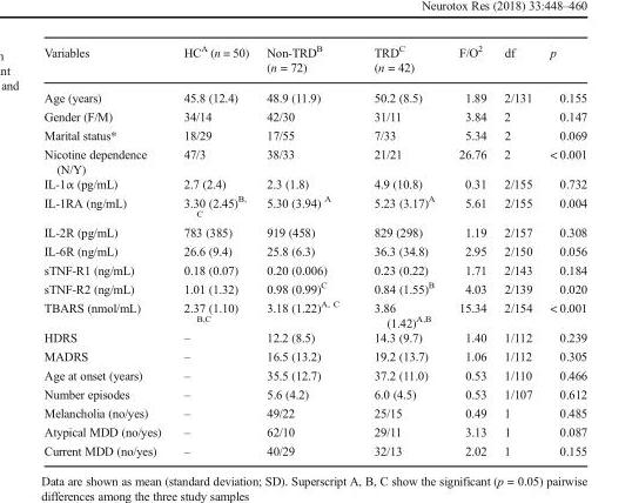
<table><thead><tr><td>Variables</td><td>HC<sup>A</sup> (n = 50)</td><td>Non-TRD<sup>B</sup> (n = 72)</td><td>TRD<sup>C</sup> (n = 42)</td><td>F/O<sup>2</sup></td><td>df</td><td>p</td></tr></thead><tbody><tr><td>Age (years)</td><td>45.8 (12.4)</td><td>48.9 (11.9)</td><td>50.2 (8.5)</td><td>1.89</td><td>2/131</td><td>0.155</td></tr><tr><td>Gender (F/M)</td><td>34/14</td><td>42/30</td><td>31/11</td><td>3.84</td><td>2</td><td>0.147</td></tr><tr><td>Marital status*</td><td>18/29</td><td>17/55</td><td>7/33</td><td>5.34</td><td>2</td><td>0.069</td></tr><tr><td>Nicotine dependence (N/Y)</td><td>47/3</td><td>38/33</td><td>21/21</td><td>26.76</td><td>2</td><td>&lt; 0.001</td></tr><tr><td>IL-1α (pg/mL)</td><td>2.7 (2.4)</td><td>2.3 (1.8)</td><td>4.9 (10.8)</td><td>0.31</td><td>2/155</td><td>0.732</td></tr><tr><td>IL-1RA (ng/mL)</td><td>3.30 (2.45)<sup>B, C</sup></td><td>5.30 (3.94) <sup>A</sup></td><td>5.23 (3.17)<sup>A</sup></td><td>5.61</td><td>2/155</td><td>0.004</td></tr><tr><td>IL-2R (pg/mL)</td><td>783 (385)</td><td>919 (458)</td><td>829 (298)</td><td>1.19</td><td>2/157</td><td>0.308</td></tr><tr><td>IL-6R (ng/mL)</td><td>26.6 (9.4)</td><td>25.8 (6.3)</td><td>36.3 (34.8)</td><td>2.95</td><td>2/150</td><td>0.056</td></tr><tr><td>sTNF-R1 (ng/mL)</td><td>0.18 (0.07)</td><td>0.20 (0.006)</td><td>0.23 (0.22)</td><td>1.71</td><td>2/143</td><td>0.184</td></tr><tr><td>sTNF-R2 (ng/mL)</td><td>1.01 (1.32)</td><td>0.98 (0.99)<sup>C</sup></td><td>0.84 (1.55)<sup>B</sup></td><td>4.03</td><td>2/139</td><td>0.020</td></tr><tr><td>TBARS (nmol/mL)</td><td>2.37 (1.10) <sup>B,C</sup></td><td>3.18 (1.22)<sup>A, C</sup></td><td>3.86 (1.42)<sup>A,B</sup></td><td>15.34</td><td>2/154</td><td>&lt; 0.001</td></tr><tr><td>HDRS</td><td>–</td><td>12.2 (8.5)</td><td>14.3 (9.7)</td><td>1.40</td><td>1/112</td><td>0.239</td></tr><tr><td>MADRS</td><td>–</td><td>16.5 (13.2)</td><td>19.2 (13.7)</td><td>1.06</td><td>1/112</td><td>0.305</td></tr><tr><td>Age at onset (years)</td><td>–</td><td>35.5 (12.7)</td><td>37.2 (11.0)</td><td>0.53</td><td>1/110</td><td>0.466</td></tr><tr><td>Number episodes</td><td>–</td><td>5.6 (4.2)</td><td>6.0 (4.5)</td><td>0.53</td><td>1/107</td><td>0.612</td></tr><tr><td>Melancholia (no/yes)</td><td>–</td><td>49/22</td><td>25/15</td><td>0.49</td><td>1</td><td>0.485</td></tr><tr><td>Atypical MDD (no/yes)</td><td>–</td><td>62/10</td><td>29/11</td><td>3.13</td><td>1</td><td>0.087</td></tr><tr><td>Current MDD (no/yes)</td><td>–</td><td>40/29</td><td>32/13</td><td>2.02</td><td>1</td><td>0.155</td></tr></tbody></table>